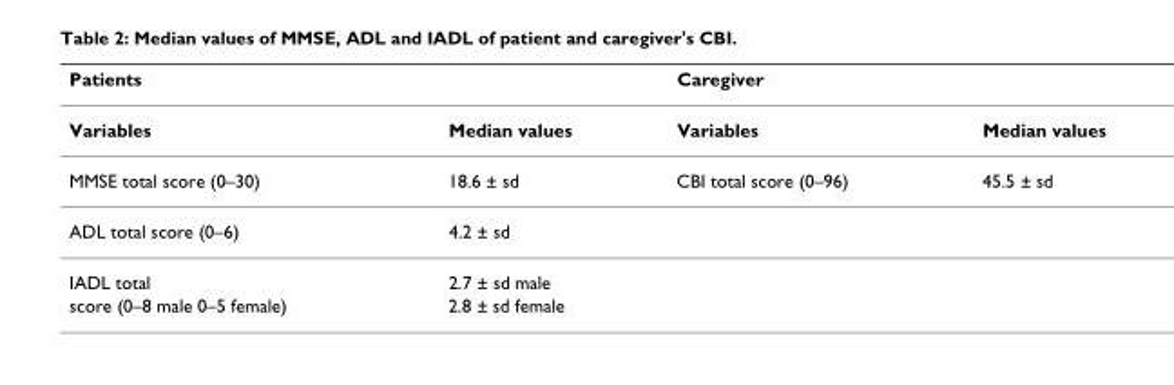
<table><thead><tr><td colspan="2">Patients</td><td colspan="2">Caregiver</td></tr><tr><td>Variables</td><td>Median values</td><td>Variables</td><td>Median values</td></tr></thead><tbody><tr><td>MMSE total score (0–30)</td><td>18.6 ± sd</td><td>CBI total score (0–96)</td><td>45.5 ± sd</td></tr><tr><td>ADL total score (0–6)</td><td>4.2 ± sd</td><td></td><td></td></tr><tr><td>IADL total</td><td>2.7 ± sd male</td><td></td><td></td></tr><tr><td>score (0–8 male 0–5 female)</td><td>2.8 ± sd female</td><td></td><td></td></tr></tbody></table>